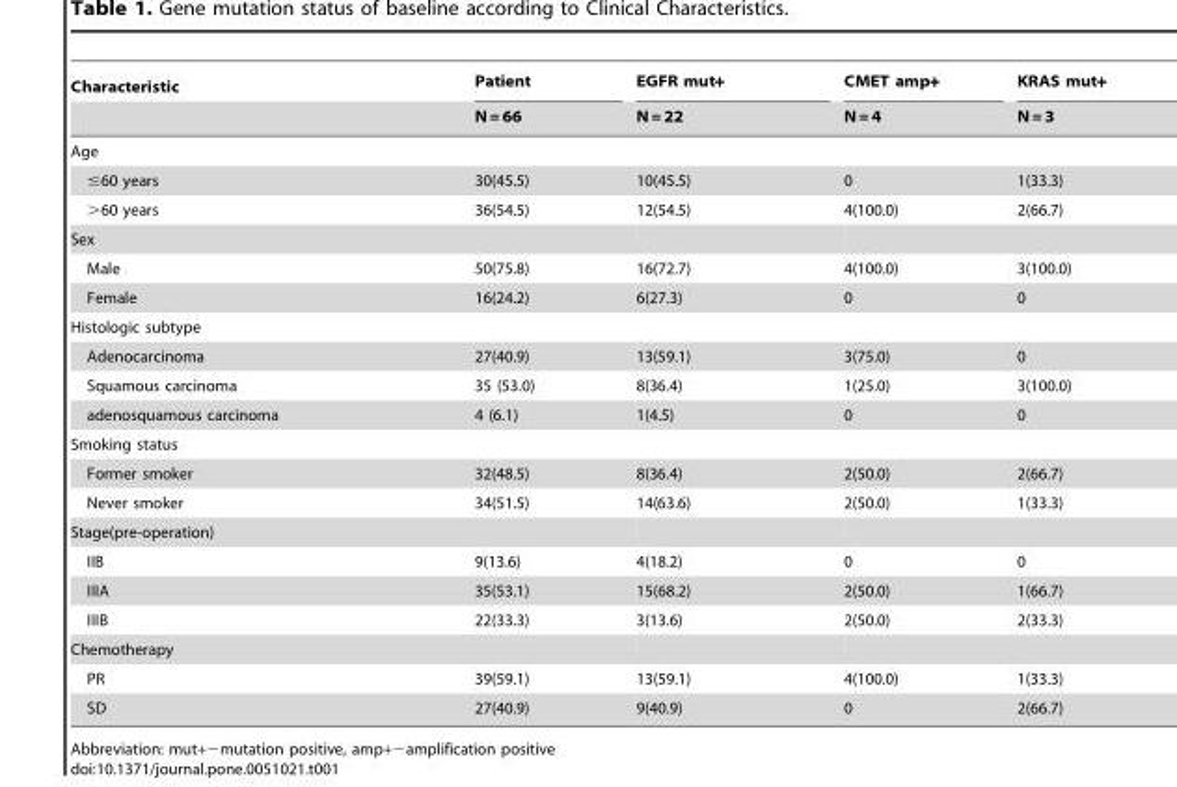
<table><thead><tr><td rowspan="2">Characteristic</td><td rowspan="2">Patient N = 66</td><td rowspan="2">EGFR mut+ N = 22</td><td rowspan="2">CMET amp+ N = 4</td><td rowspan="2">KRAS mut+ N = 3</td></tr><tr></tr></thead><tbody><tr><td colspan="5">Age</td></tr><tr><td>≤60 years</td><td>30(45.5)</td><td>10(45.5)</td><td>0</td><td>1(33.3)</td></tr><tr><td>&gt;60 years</td><td>36(54.5)</td><td>12(54.5)</td><td>4(100.0)</td><td>2(66.7)</td></tr><tr><td colspan="5">Sex</td></tr><tr><td>Male</td><td>50(75.8)</td><td>16(72.7)</td><td>4(100.0)</td><td>3(100.0)</td></tr><tr><td>Female</td><td>16(24.2)</td><td>6(27.3)</td><td>0</td><td>0</td></tr><tr><td colspan="5">Histologic subtype</td></tr><tr><td>Adenocarcinoma</td><td>27(40.9)</td><td>13(59.1)</td><td>3(75.0)</td><td>0</td></tr><tr><td>Squamous carcinoma</td><td>35 (53.0)</td><td>8(36.4)</td><td>1(25.0)</td><td>3(100.0)</td></tr><tr><td>adenosquamous carcinoma</td><td>4 (6.1)</td><td>1(4.5)</td><td>0</td><td>0</td></tr><tr><td colspan="5">Smoking status</td></tr><tr><td>Former smoker</td><td>32(48.5)</td><td>8(36.4)</td><td>2(50.0)</td><td>2(66.7)</td></tr><tr><td>Never smoker</td><td>34(51.5)</td><td>14(63.6)</td><td>2(50.0)</td><td>1(33.3)</td></tr><tr><td colspan="5">Stage(pre-operation)</td></tr><tr><td>IIB</td><td>9(13.6)</td><td>4(18.2)</td><td>0</td><td>0</td></tr><tr><td>IIIA</td><td>35(53.1)</td><td>15(68.2)</td><td>2(50.0)</td><td>1(66.7)</td></tr><tr><td>IIIB</td><td>22(33.3)</td><td>3(13.6)</td><td>2(50.0)</td><td>2(33.3)</td></tr><tr><td colspan="5">Chemotherapy</td></tr><tr><td>PR</td><td>39(59.1)</td><td>13(59.1)</td><td>4(100.0)</td><td>1(33.3)</td></tr><tr><td>SD</td><td>27(40.9)</td><td>9(40.9)</td><td>0</td><td>2(66.7)</td></tr></tbody></table>